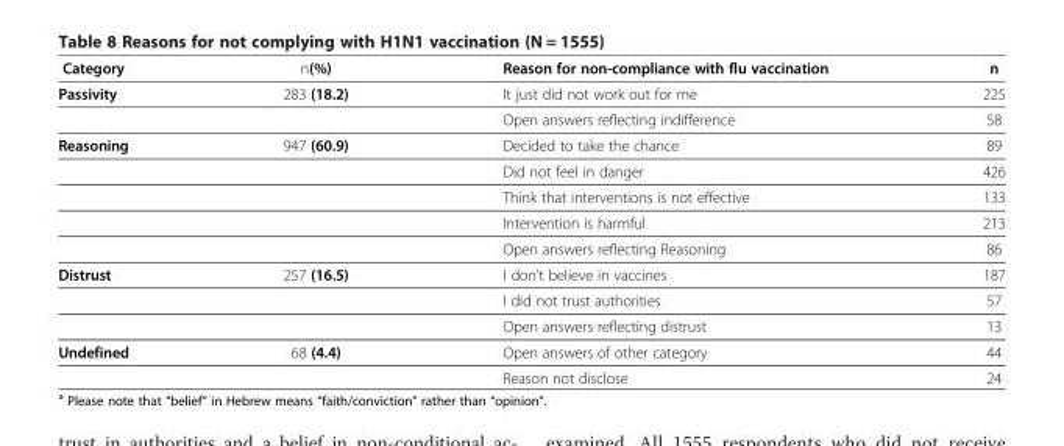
<table><thead><tr><td>Category</td><td>n(%)</td><td>Reason for non-compliance with flu vaccination</td><td>n</td></tr></thead><tbody><tr><td rowspan="2">Passivity</td><td>283 (18.2)</td><td>It just did not work out for me</td><td>225</td></tr><tr><td></td><td>Open answers reflecting indifference</td><td>58</td></tr><tr><td rowspan="5">Reasoning</td><td>947 (60.9)</td><td>Decided to take the chance</td><td>89</td></tr><tr><td></td><td>Did not feel in danger</td><td>426</td></tr><tr><td></td><td>Think that interventions is not effective</td><td>133</td></tr><tr><td></td><td>Intervention is harmful</td><td>213</td></tr><tr><td></td><td>Open answers reflecting Reasoning</td><td>86</td></tr><tr><td rowspan="3">Distrust</td><td>257 (16.5)</td><td>I don’t believe in vaccines</td><td>187</td></tr><tr><td></td><td>I did not trust authorities</td><td>57</td></tr><tr><td></td><td>Open answers reflecting distrust</td><td>13</td></tr><tr><td rowspan="2">Undefined</td><td>68 (4.4)</td><td>Open answers of other category</td><td>44</td></tr><tr><td></td><td>Reason not disclose</td><td>24</td></tr></tbody></table>